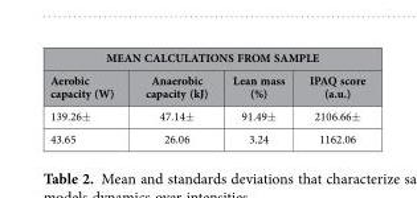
<table><thead><tr><td colspan="4">MEAN CALCULATIONS FROM SAMPLE</td></tr><tr><td>Aerobic capacity (W)</td><td>Anaerobic capacity (kJ)</td><td>Lean mass (%)</td><td>IPAQ score (a.u.)</td></tr></thead><tbody><tr><td>139.26±</td><td>47.14±</td><td>91.49±</td><td>2106.66±</td></tr><tr><td>43.65</td><td>26.06</td><td>3.24</td><td>1162.06</td></tr></tbody></table>